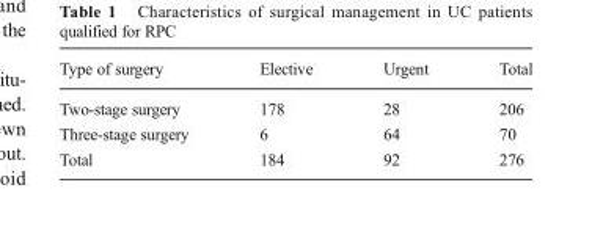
<table><thead><tr><td>Type of surgery</td><td>Elective</td><td>Urgent</td><td>Total</td></tr></thead><tbody><tr><td>Two-stage surgery</td><td>178</td><td>28</td><td>206</td></tr><tr><td>Three-stage surgery</td><td>6</td><td>64</td><td>70</td></tr><tr><td>Total</td><td>184</td><td>92</td><td>276</td></tr></tbody></table>